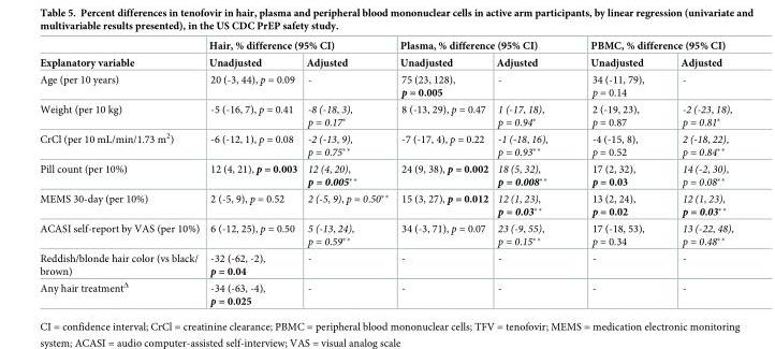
<table><thead><tr><td rowspan="2">Explanatory variable</td><td colspan="2">Hair, % difference (95% CI)</td><td colspan="2">Plasma, % difference (95% CI)</td><td colspan="2">PBMC, % difference (95% CI)</td></tr><tr><td>Unadjusted</td><td>Adjusted</td><td>Unadjusted</td><td>Adjusted</td><td>Unadjusted</td><td>Adjusted</td></tr></thead><tbody><tr><td>Age (per 10 years)</td><td>20 (-3, 44), p = 0.09</td><td>-</td><td>75 (23, 128), p = 0.005</td><td>-</td><td>34 (-11, 79), p = 0.14</td><td>-</td></tr><tr><td>Weight (per 10 kg)</td><td>-5 (-16, 7), p = 0.41</td><td>-8 (-18, 3), p = 0.17*</td><td>8 (-13, 29), p = 0.47</td><td>1 (-17, 18), p = 0.94*</td><td>2 (-19, 23), p = 0.87</td><td>-2 (-23, 18), p = 0.81*</td></tr><tr><td>CrCl (per 10 mL/min/1.73 m<sup>2</sup>)</td><td>-6 (-12, 1), p = 0.08</td><td>-2 (-13, 9), p = 0.75**</td><td>-7 (-17, 4), p = 0.22</td><td>-1 (-18, 16), p = 0.93**</td><td>-4 (-15, 8), p = 0.52</td><td>2 (-18, 22), p = 0.84**</td></tr><tr><td>Pill count (per 10%)</td><td>12 (4, 21), p = 0.003</td><td>12 (4, 20), p = 0.005**</td><td>24 (9, 38), p = 0.002</td><td>18 (5, 32), p = 0.008**</td><td>17 (2, 32), p = 0.03</td><td>14 (-2, 30), p = 0.08**</td></tr><tr><td>MEMS 30-day (per 10%)</td><td>2 (-5, 9), p = 0.52</td><td>2 (-5, 9), p = 0.50**</td><td>15 (3, 27), p = 0.012</td><td>12 (1, 23), p = 0.03**</td><td>13 (2, 24), p = 0.02</td><td>12 (1, 23), p = 0.03**</td></tr><tr><td>ACASI self-report by VAS (per 10%)</td><td>6 (-12, 25), p = 0.50</td><td>5 (-13, 24), p = 0.59**</td><td>34 (-3, 71), p = 0.07</td><td>23 (-9, 55), p = 0.15**</td><td>17 (-18, 53), p = 0.34</td><td>13 (-22, 48), p = 0.48**</td></tr><tr><td>Reddish/blonde hair color (vs black/ brown)</td><td>-32 (-62, -2), p = 0.04</td><td>-</td><td>-</td><td>-</td><td>-</td><td>-</td></tr><tr><td>Any hair treatment<sup>Δ</sup></td><td>-34 (-63, -4), p = 0.025</td><td>-</td><td>-</td><td>-</td><td>-</td><td>-</td></tr></tbody></table>